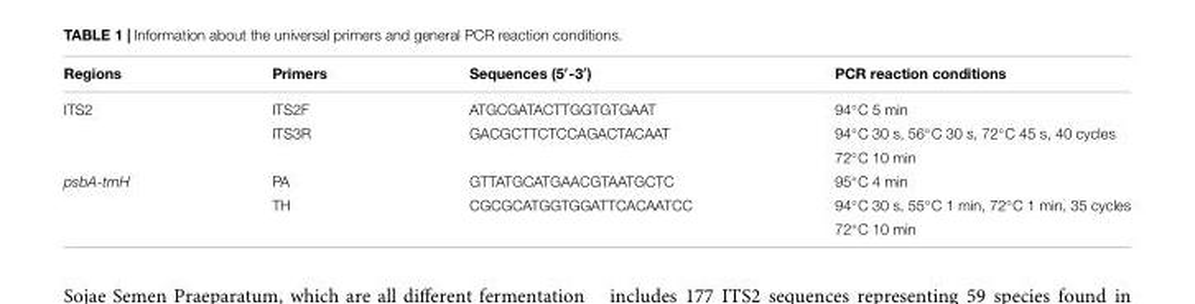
<table><thead><tr><td>Regions</td><td>Primers</td><td>Sequences (5′-3′)</td><td>PCR reaction conditions</td></tr></thead><tbody><tr><td rowspan="3">ITS2</td><td>ITS2F</td><td>ATGCGATACTTGGTGTGAAT</td><td>94◦C 5 min</td></tr><tr><td>ITS3R</td><td>GACGCTTCTCCAGACTACAAT</td><td>94◦C 30 s, 56◦C 30 s, 72◦C 45 s, 40 cycles</td></tr><tr><td></td><td></td><td>72◦C 10 min</td></tr><tr><td rowspan="3">psbA-trnH</td><td>PA</td><td>GTTATGCATGAACGTAATGCTC</td><td>95◦C 4 min</td></tr><tr><td>TH</td><td>CGCGCATGGTGGATTCACAATCC</td><td>94◦C 30 s, 55◦C 1 min, 72◦C 1 min, 35 cycles</td></tr><tr><td></td><td></td><td>72◦C 10 min</td></tr></tbody></table>